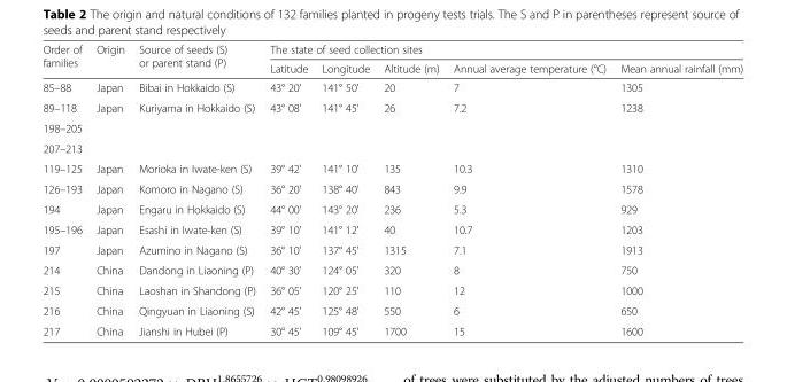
<table><thead><tr><td rowspan="2">Order of families</td><td rowspan="2">Origin</td><td rowspan="2">Source of seeds (S) or parent stand (P)</td><td colspan="5">The state of seed collection sites</td></tr><tr><td>Latitude</td><td>Longitude</td><td>Altitude (m)</td><td>Annual average temperature (°C)</td><td>Mean annual rainfall (mm)</td></tr></thead><tbody><tr><td>85–88</td><td>Japan</td><td>Bibai in Hokkaido (S)</td><td>43° 20&#x27;</td><td>141° 50&#x27;</td><td>20</td><td>7</td><td>1305</td></tr><tr><td>89–118</td><td rowspan="3">Japan</td><td rowspan="3">Kuriyama in Hokkaido (S)</td><td rowspan="3">43° 08&#x27;</td><td rowspan="3">141° 45&#x27;</td><td rowspan="3">26</td><td rowspan="3">7.2</td><td rowspan="3">1238</td></tr><tr><td>198–205</td></tr><tr><td>207–213</td></tr><tr><td>119–125</td><td>Japan</td><td>Morioka in Iwate-ken (S)</td><td>39° 42&#x27;</td><td>141° 10&#x27;</td><td>135</td><td>10.3</td><td>1310</td></tr><tr><td>126–193</td><td>Japan</td><td>Komoro in Nagano (S)</td><td>36° 20&#x27;</td><td>138° 40&#x27;</td><td>843</td><td>9.9</td><td>1578</td></tr><tr><td>194</td><td>Japan</td><td>Engaru in Hokkaido (S)</td><td>44° 00&#x27;</td><td>143° 20&#x27;</td><td>236</td><td>5.3</td><td>929</td></tr><tr><td>195–196</td><td>Japan</td><td>Esashi in Iwate-ken (S)</td><td>39° 10&#x27;</td><td>141° 12&#x27;</td><td>40</td><td>10.7</td><td>1203</td></tr><tr><td>197</td><td>Japan</td><td>Azumino in Nagano (S)</td><td>36° 10&#x27;</td><td>137° 45&#x27;</td><td>1315</td><td>7.1</td><td>1913</td></tr><tr><td>214</td><td>China</td><td>Dandong in Liaoning (P)</td><td>40° 30&#x27;</td><td>124° 05&#x27;</td><td>320</td><td>8</td><td>750</td></tr><tr><td>215</td><td>China</td><td>Laoshan in Shandong (P)</td><td>36° 05&#x27;</td><td>120° 25&#x27;</td><td>110</td><td>12</td><td>1000</td></tr><tr><td>216</td><td>China</td><td>Qingyuan in Liaoning (S)</td><td>42° 45&#x27;</td><td>125° 48&#x27;</td><td>550</td><td>6</td><td>650</td></tr><tr><td>217</td><td>China</td><td>Jianshi in Hubei (P)</td><td>30° 45&#x27;</td><td>109° 45&#x27;</td><td>1700</td><td>15</td><td>1600</td></tr></tbody></table>